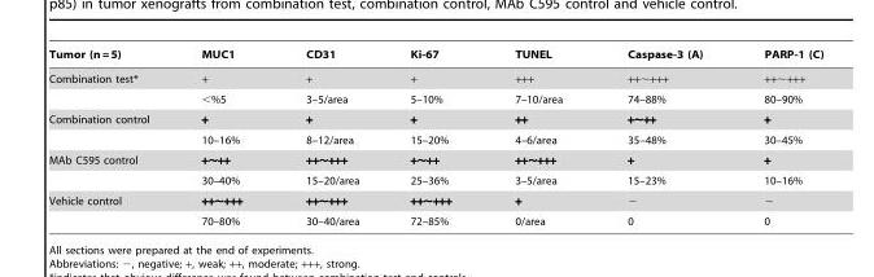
<table><thead><tr><td>Tumor (n = 5)</td><td>MUC1</td><td>CD31</td><td>Ki-67</td><td>TUNEL</td><td>Caspase-3 (A)</td><td>PARP-1 (C)</td></tr></thead><tbody><tr><td rowspan="2">Combination test*</td><td>+</td><td>+</td><td>+</td><td>+++</td><td>++∼+++</td><td>++∼+++</td></tr><tr><td>&lt;%5</td><td>3–5/area</td><td>5–10%</td><td>7–10/area</td><td>74–88%</td><td>80–90%</td></tr><tr><td rowspan="2">Combination control</td><td>+</td><td>+</td><td>+</td><td>++</td><td>+∼++</td><td>+</td></tr><tr><td>10–16%</td><td>8–12/area</td><td>15–20%</td><td>4–6/area</td><td>35–48%</td><td>30–45%</td></tr><tr><td rowspan="2">MAb C595 control</td><td>+∼++</td><td>++∼+++</td><td>+∼++</td><td>++∼+++</td><td>+</td><td>+</td></tr><tr><td>30–40%</td><td>15–20/area</td><td>25–36%</td><td>3–5/area</td><td>15–23%</td><td>10–16%</td></tr><tr><td rowspan="2">Vehicle control</td><td>++∼+++</td><td>++∼+++</td><td>++∼+++</td><td>+</td><td>−</td><td>−</td></tr><tr><td>70–80%</td><td>30–40/area</td><td>72–85%</td><td>0/area</td><td>0</td><td>0</td></tr></tbody></table>